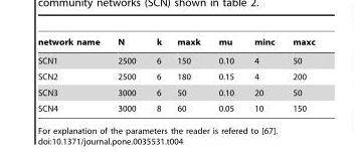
<table><thead><tr><td>network name</td><td>N</td><td>k</td><td>maxk</td><td>mu</td><td>minc</td><td>maxc</td></tr></thead><tbody><tr><td>SCN1</td><td>2500</td><td>6</td><td>150</td><td>0.10</td><td>4</td><td>50</td></tr><tr><td>SCN2</td><td>2500</td><td>6</td><td>180</td><td>0.15</td><td>4</td><td>200</td></tr><tr><td>SCN3</td><td>3000</td><td>6</td><td>50</td><td>0.10</td><td>20</td><td>50</td></tr><tr><td>SCN4</td><td>3000</td><td>8</td><td>60</td><td>0.05</td><td>10</td><td>150</td></tr></tbody></table>